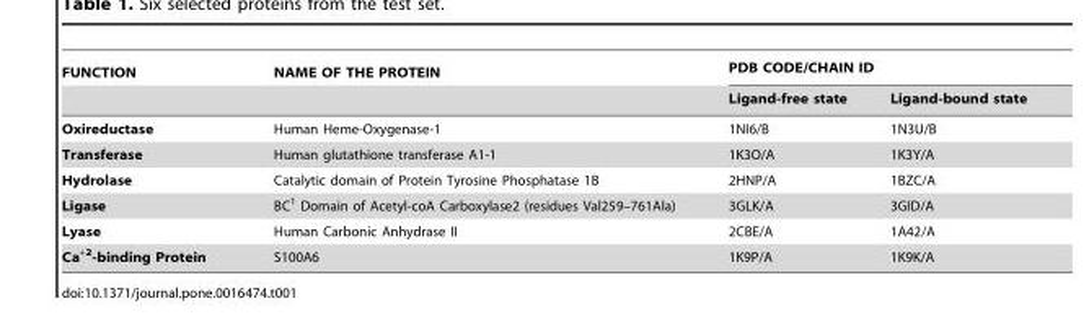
<table><thead><tr><td rowspan="2">FUNCTION</td><td rowspan="2">NAME OF THE PROTEIN</td><td colspan="2">PDB CODE/CHAIN ID</td></tr><tr><td>Ligand-free state</td><td>Ligand-bound state</td></tr></thead><tbody><tr><td>Oxireductase</td><td>Human Heme-Oxygenase-1</td><td>1NI6/B</td><td>1N3U/B</td></tr><tr><td>Transferase</td><td>Human glutathione transferase A1-1</td><td>1K3O/A</td><td>1K3Y/A</td></tr><tr><td>Hydrolase</td><td>Catalytic domain of Protein Tyrosine Phosphatase 1B</td><td>2HNP/A</td><td>1BZC/A</td></tr><tr><td>Ligase</td><td>BC1 Domain of Acetyl-coA Carboxylase2 (residues Val259–761Ala)</td><td>3GLK/A</td><td>3GID/A</td></tr><tr><td>Lyase</td><td>Human Carbonic Anhydrase II</td><td>2CBE/A</td><td>1A42/A</td></tr><tr><td>Ca<sup>+2</sup>-binding Protein</td><td>S100A6</td><td>1K9P/A</td><td>1K9K/A</td></tr></tbody></table>